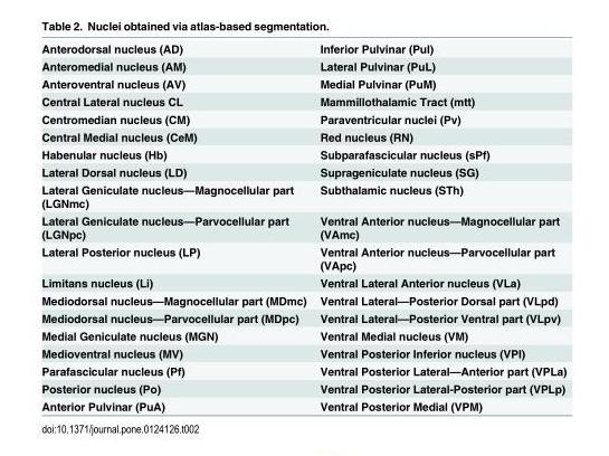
<table><tbody><tr><td>Anterodorsal nucleus (AD)</td><td>Inferior Pulvinar (PuI)</td></tr><tr><td>Anteromedial nucleus (AM)</td><td>Lateral Pulvinar (PuL)</td></tr><tr><td>Anteroventral nucleus (AV)</td><td>Medial Pulvinar (PuM)</td></tr><tr><td>Central Lateral nucleus CL</td><td>Mammillothalamic Tract (mtt)</td></tr><tr><td>Centromedian nucleus (CM)</td><td>Paraventricular nuclei (Pv)</td></tr><tr><td>Central Medial nucleus (CeM)</td><td>Red nucleus (RN)</td></tr><tr><td>Habenular nucleus (Hb)</td><td>Subparafascicular nucleus (sPf)</td></tr><tr><td>Lateral Dorsal nucleus (LD)</td><td>Suprageniculate nucleus (SG)</td></tr><tr><td>Lateral Geniculate nucleus—Magnocellular part (LGNmc)</td><td>Subthalamic nucleus (STh)</td></tr><tr><td>Lateral Geniculate nucleus—Parvocellular part (LGNpc)</td><td>Ventral Anterior nucleus—Magnocellular part (VAmc)</td></tr><tr><td>Lateral Posterior nucleus (LP)</td><td>Ventral Anterior nucleus—Parvocellular part (VApc)</td></tr><tr><td>Limitans nucleus (Li)</td><td>Ventral Lateral Anterior nucleus (VLa)</td></tr><tr><td>Mediodorsal nucleus—Magnocellular part (MDmc)</td><td>Ventral Lateral—Posterior Dorsal part (VLpd)</td></tr><tr><td>Mediodorsal nucleus—Parvocellular part (MDpc)</td><td>Ventral Lateral—Posterior Ventral part (VLpv)</td></tr><tr><td>Medial Geniculate nucleus (MGN)</td><td>Ventral Medial nucleus (VM)</td></tr><tr><td>Medioventral nucleus (MV)</td><td>Ventral Posterior Inferior nucleus (VPI)</td></tr><tr><td>Parafascicular nucleus (Pf)</td><td>Ventral Posterior Lateral—Anterior part (VPLa)</td></tr><tr><td>Posterior nucleus (Po)</td><td>Ventral Posterior Lateral-Posterior part (VPLp)</td></tr><tr><td>Anterior Pulvinar (PuA)</td><td>Ventral Posterior Medial (VPM)</td></tr></tbody></table>